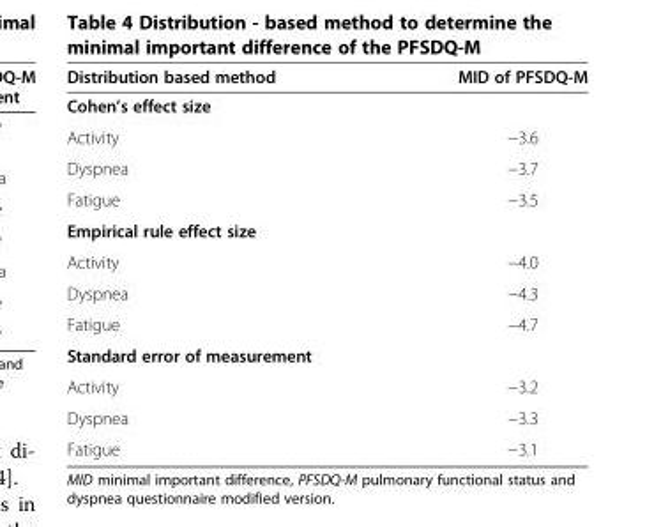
<table><thead><tr><td>Distribution based method</td><td>MID of PFSDQ-M</td></tr></thead><tbody><tr><td colspan="2">Cohen’s effect size</td></tr><tr><td>Activity</td><td>−3.6</td></tr><tr><td>Dyspnea</td><td>−3.7</td></tr><tr><td>Fatigue</td><td>−3.5</td></tr><tr><td colspan="2">Empirical rule effect size</td></tr><tr><td>Activity</td><td>−4.0</td></tr><tr><td>Dyspnea</td><td>−4.3</td></tr><tr><td>Fatigue</td><td>−4.7</td></tr><tr><td colspan="2">Standard error of measurement</td></tr><tr><td>Activity</td><td>−3.2</td></tr><tr><td>Dyspnea</td><td>−3.3</td></tr><tr><td>Fatigue</td><td>−3.1</td></tr></tbody></table>